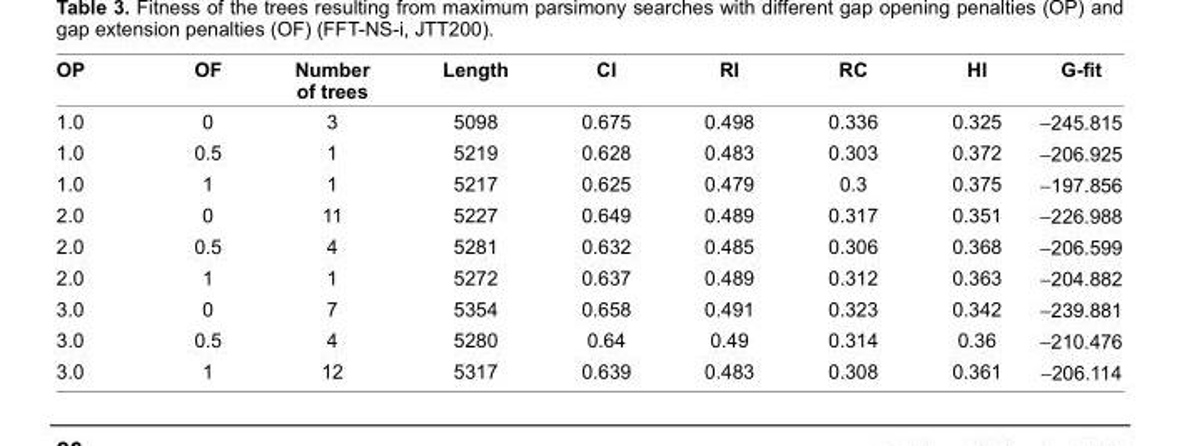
<table><thead><tr><td>Op</td><td>OF</td><td>number of trees</td><td>Length</td><td>cI</td><td>RI</td><td>Rc</td><td>HI</td><td>G-fit</td></tr></thead><tbody><tr><td>1.0</td><td>0</td><td>3</td><td>5098</td><td>0.675</td><td>0.498</td><td>0.336</td><td>0.325</td><td>-245.815</td></tr><tr><td>1.0</td><td>0.5</td><td>1</td><td>5219</td><td>0.628</td><td>0.483</td><td>0.303</td><td>0.372</td><td>-206.925</td></tr><tr><td>1.0</td><td>1</td><td>1</td><td>5217</td><td>0.625</td><td>0.479</td><td>0.3</td><td>0.375</td><td>-197.856</td></tr><tr><td>2.0</td><td>0</td><td>11</td><td>5227</td><td>0.649</td><td>0.489</td><td>0.317</td><td>0.351</td><td>-226.988</td></tr><tr><td>2.0</td><td>0.5</td><td>4</td><td>5281</td><td>0.632</td><td>0.485</td><td>0.306</td><td>0.368</td><td>-206.599</td></tr><tr><td>2.0</td><td>1</td><td>1</td><td>5272</td><td>0.637</td><td>0.489</td><td>0.312</td><td>0.363</td><td>-204.882</td></tr><tr><td>3.0</td><td>0</td><td>7</td><td>5354</td><td>0.658</td><td>0.491</td><td>0.323</td><td>0.342</td><td>-239.881</td></tr><tr><td>3.0</td><td>0.5</td><td>4</td><td>5280</td><td>0.64</td><td>0.49</td><td>0.314</td><td>0.36</td><td>-210.476</td></tr><tr><td>3.0</td><td>1</td><td>12</td><td>5317</td><td>0.639</td><td>0.483</td><td>0.308</td><td>0.361</td><td>-206.114</td></tr></tbody></table>